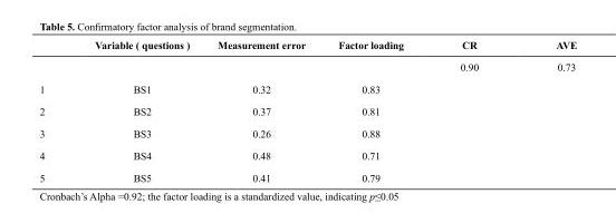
<table><thead><tr><td></td><td>Variable ( questions )</td><td>Measurement error</td><td>Factor loading</td><td>CR</td><td>AVE</td></tr></thead><tbody><tr><td colspan="4"></td><td>0.90</td><td>0.73</td></tr><tr><td>1</td><td>BS1</td><td>0.32</td><td>0.83</td><td rowspan="5" colspan="2"></td></tr><tr><td>2</td><td>BS2</td><td>0.37</td><td>0.81</td></tr><tr><td>3</td><td>BS3</td><td>0.26</td><td>0.88</td></tr><tr><td>4</td><td>BS4</td><td>0.48</td><td>0.71</td></tr><tr><td>5</td><td>BS5</td><td>0.41</td><td>0.79</td></tr></tbody></table>